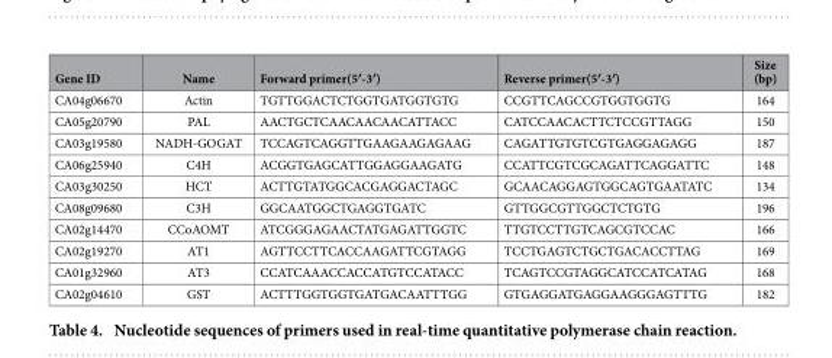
<table><thead><tr><td>Gene ID</td><td>Name</td><td>Forward primer(5′-3′)</td><td>Reverse primer(5′-3′)</td><td>Size (bp)</td></tr></thead><tbody><tr><td>CA04g06670</td><td>Actin</td><td>TGTTGGACTCTGGTGATGGTGTG</td><td>CCGTTCAGCCGTGGTGGTG</td><td>164</td></tr><tr><td>CA05g20790</td><td>PAL</td><td>AACTGCTCAACAACAACATTACC</td><td>CATCCAACACTTCTCCGTTAGG</td><td>150</td></tr><tr><td>CA03g19580</td><td>NADH-GOGAT</td><td>TCCAGTCAGGTTGAAGAAGAGAAG</td><td>CAGATTGTGTCGTGAGGAGAGG</td><td>187</td></tr><tr><td>CA06g25940</td><td>C4H</td><td>ACGGTGAGCATTGGAGGAAGATG</td><td>CCATTCGTCGCAGATTCAGGATTC</td><td>148</td></tr><tr><td>CA03g30250</td><td>HCT</td><td>ACTTGTATGGCACGAGGACTAGC</td><td>GCAACAGGAGTGGCAGTGAATATC</td><td>134</td></tr><tr><td>CA08g09680</td><td>C3H</td><td>GGCAATGGCTGAGGTGATC</td><td>GTTGGCGTTGGCTCTGTG</td><td>196</td></tr><tr><td>CA02g14470</td><td>CCoAOMT</td><td>ATCGGGAGAACTATGAGATTGGTC</td><td>TTGTCCTTGTCAGCGTCCAC</td><td>166</td></tr><tr><td>CA02g19270</td><td>AT1</td><td>AGTTCCTTCACCAAGATTCGTAGG</td><td>TCCTGAGTCTGCTGACACCTTAG</td><td>169</td></tr><tr><td>CA01g32960</td><td>AT3</td><td>CCATCAAACCACCATGTCCATACC</td><td>TCAGTCCGTAGGCATCCATCATAG</td><td>168</td></tr><tr><td>CA02g04610</td><td>GST</td><td>ACTTTGGTGGTGATGACAATTTGG</td><td>GTGAGGATGAGGAAGGGAGTTTG</td><td>182</td></tr></tbody></table>